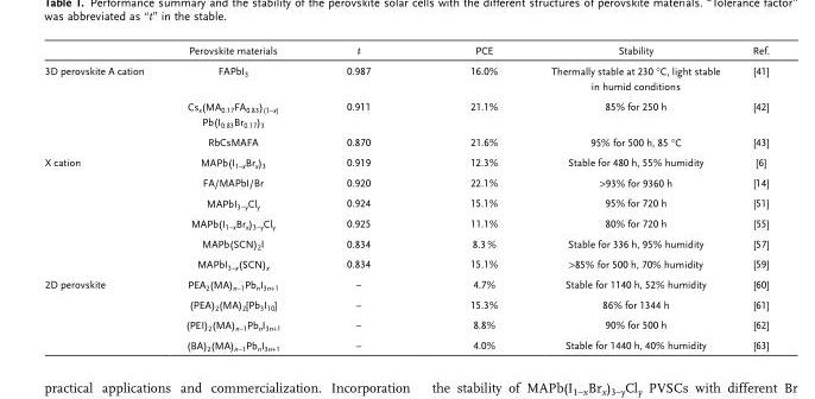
<table><thead><tr><td></td><td>Perovskite materials</td><td>t</td><td>PCE</td><td>Stability</td><td>Ref.</td></tr></thead><tbody><tr><td rowspan="3">3D perovskite A cation</td><td>FAPbI<sub>3</sub></td><td>0.987</td><td>16.0%</td><td>Thermally stable at 230 °C, light stable in humid conditions</td><td>[41]</td></tr><tr><td>Cs<sub>x</sub>(MA<sub>0.17</sub>FA<sub>0.83</sub>)<sub>(1−x)</sub> Pb(I<sub>0.83</sub>Br<sub>0.17</sub>)<sub>3</sub></td><td>0.911</td><td>21.1%</td><td>85% for 250 h</td><td>[42]</td></tr><tr><td>RbCsMAFA</td><td>0.870</td><td>21.6%</td><td>95% for 500 h, 85 °C</td><td>[43]</td></tr><tr><td rowspan="6">X cation</td><td>MAPb(I<sub>1−x</sub>Br<sub>x</sub>)<sub>3</sub></td><td>0.919</td><td>12.3%</td><td>Stable for 480 h, 55% humidity</td><td>[6]</td></tr><tr><td>FA/MAPbI/Br</td><td>0.920</td><td>22.1%</td><td>&gt;93% for 9360 h</td><td>[14]</td></tr><tr><td>MAPbI<sub>3−y</sub>Cl<sub>y</sub></td><td>0.924</td><td>15.1%</td><td>95% for 720 h</td><td>[51]</td></tr><tr><td>MAPb(I<sub>1−x</sub>Br<sub>x</sub>)<sub>3−y</sub>Cl<sub>y</sub></td><td>0.925</td><td>11.1%</td><td>80% for 720 h</td><td>[55]</td></tr><tr><td>MAPb(SCN)<sub>2</sub>I</td><td>0.834</td><td>8.3 %</td><td>Stable for 336 h, 95% humidity</td><td>[57]</td></tr><tr><td>MAPbI<sub>3−x</sub>(SCN)<sub>x</sub></td><td>0.834</td><td>15.1%</td><td>&gt;85% for 500 h, 70% humidity</td><td>[59]</td></tr><tr><td rowspan="4">2D perovskite</td><td>PEA<sub>2</sub>(MA)<sub>n−1</sub>Pb<sub>n</sub>I<sub>3n+1</sub></td><td>–</td><td>4.7%</td><td>Stable for 1140 h, 52% humidity</td><td>[60]</td></tr><tr><td>(PEA)<sub>2</sub>(MA)<sub>2</sub>[Pb<sub>3</sub>I<sub>10</sub>]</td><td>–</td><td>15.3%</td><td>86% for 1344 h</td><td>[61]</td></tr><tr><td>(PEI)<sub>2</sub>(MA)<sub>n−1</sub>Pb<sub>n</sub>I<sub>3n+1</sub></td><td>–</td><td>8.8%</td><td>90% for 500 h</td><td>[62]</td></tr><tr><td>(BA)<sub>2</sub>(MA)<sub>n−1</sub>Pb<sub>n</sub>I<sub>3n+1</sub></td><td>–</td><td>4.0%</td><td>Stable for 1440 h, 40% humidity</td><td>[63]</td></tr></tbody></table>